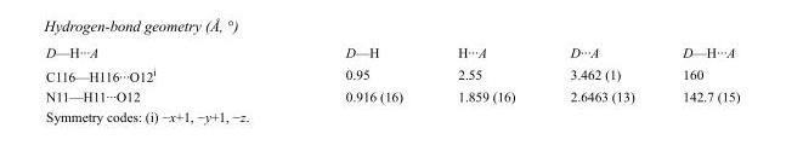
<table><tbody><tr><td>D—H···A</td><td>D—H</td><td>H···A</td><td>D···A</td><td>D—H···A</td></tr><tr><td>C116—H116···O12<sup>i</sup></td><td>0.95</td><td>2.55</td><td>3.462 (1)</td><td>160</td></tr><tr><td>N11—H11···O12</td><td>0.916 (16)</td><td>1.859 (16)</td><td>2.6463 (13)</td><td>142.7 (15)</td></tr></tbody></table>